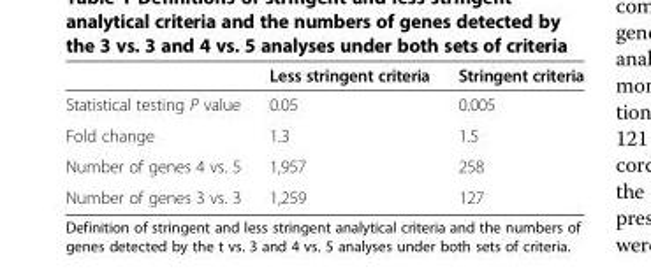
<table><thead><tr><td></td><td>Less stringent criteria</td><td>Stringent criteria</td></tr></thead><tbody><tr><td>Statistical testing P value</td><td>0.05</td><td>0.005</td></tr><tr><td>Fold change</td><td>1.3</td><td>1.5</td></tr><tr><td>Number of genes 4 vs. 5</td><td>1,957</td><td>258</td></tr><tr><td>Number of genes 3 vs. 3</td><td>1,259</td><td>127</td></tr></tbody></table>